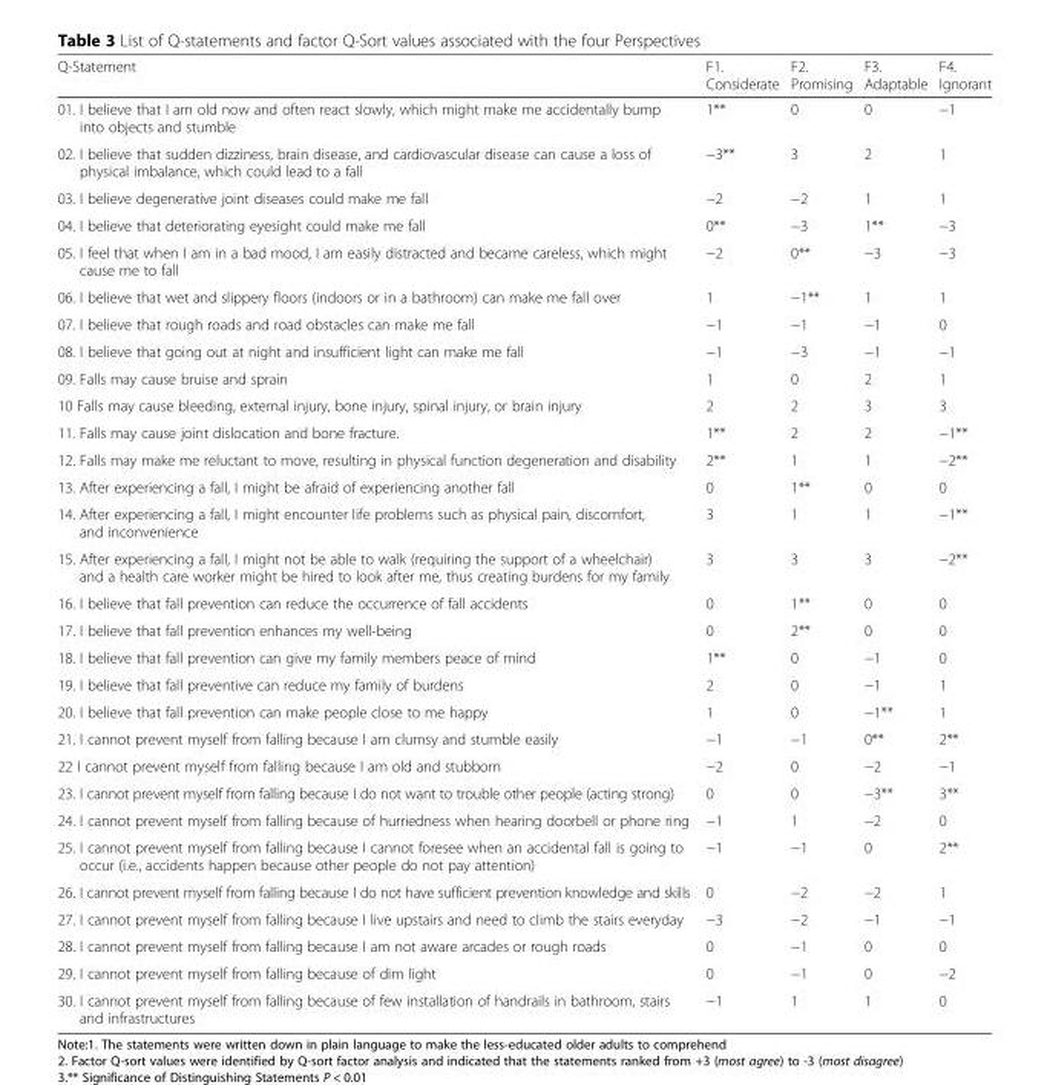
<table><thead><tr><td>Q-Statement</td><td>F1. Considerate</td><td>F2. Promising</td><td>F3. Adaptable</td><td>F4. Ignorant</td></tr></thead><tbody><tr><td>01. I believe that I am old now and often react slowly, which might make me accidentally bump into objects and stumble</td><td>1**</td><td>0</td><td>0</td><td>−1</td></tr><tr><td>02. I believe that sudden dizziness, brain disease, and cardiovascular disease can cause a loss of physical imbalance, which could lead to a fall</td><td>−3**</td><td>3</td><td>2</td><td>1</td></tr><tr><td>03. I believe degenerative joint diseases could make me fall</td><td>−2</td><td>−2</td><td>1</td><td>1</td></tr><tr><td>04. I believe that deteriorating eyesight could make me fall</td><td>0**</td><td>−3</td><td>1**</td><td>−3</td></tr><tr><td>05. I feel that when I am in a bad mood, I am easily distracted and became careless, which might cause me to fall</td><td>−2</td><td>0**</td><td>−3</td><td>−3</td></tr><tr><td>06. I believe that wet and slippery floors (indoors or in a bathroom) can make me fall over</td><td>1</td><td>−1**</td><td>1</td><td>1</td></tr><tr><td>07. I believe that rough roads and road obstacles can make me fall</td><td>−1</td><td>−1</td><td>−1</td><td>0</td></tr><tr><td>08. I believe that going out at night and insufficient light can make me fall</td><td>−1</td><td>−3</td><td>−1</td><td>−1</td></tr><tr><td>09. Falls may cause bruise and sprain</td><td>1</td><td>0</td><td>2</td><td>1</td></tr><tr><td>10 Falls may cause bleeding, external injury, bone injury, spinal injury, or brain injury</td><td>2</td><td>2</td><td>3</td><td>3</td></tr><tr><td>11. Falls may cause joint dislocation and bone fracture.</td><td>1**</td><td>2</td><td>2</td><td>−1**</td></tr><tr><td>12. Falls may make me reluctant to move, resulting in physical function degeneration and disability</td><td>2**</td><td>1</td><td>1</td><td>−2**</td></tr><tr><td>13. After experiencing a fall, I might be afraid of experiencing another fall</td><td>0</td><td>1**</td><td>0</td><td>0</td></tr><tr><td>14. After experiencing a fall, I might encounter life problems such as physical pain, discomfort, and inconvenience</td><td>3</td><td>1</td><td>1</td><td>−1**</td></tr><tr><td>15. After experiencing a fall, I might not be able to walk (requiring the support of a wheelchair) and a health care worker might be hired to look after me, thus creating burdens for my family</td><td>3</td><td>3</td><td>3</td><td>−2**</td></tr><tr><td>16. I believe that fall prevention can reduce the occurrence of fall accidents</td><td>0</td><td>1**</td><td>0</td><td>0</td></tr><tr><td>17. I believe that fall prevention enhances my well-being</td><td>0</td><td>2**</td><td>0</td><td>0</td></tr><tr><td>18. I believe that fall prevention can give my family members peace of mind</td><td>1**</td><td>0</td><td>−1</td><td>0</td></tr><tr><td>19. I believe that fall preventive can reduce my family of burdens</td><td>2</td><td>0</td><td>−1</td><td>1</td></tr><tr><td>20. I believe that fall prevention can make people close to me happy</td><td>1</td><td>0</td><td>−1**</td><td>1</td></tr><tr><td>21. I cannot prevent myself from falling because I am clumsy and stumble easily</td><td>−1</td><td>−1</td><td>0**</td><td>2**</td></tr><tr><td>22 I cannot prevent myself from falling because I am old and stubborn</td><td>−2</td><td>0</td><td>−2</td><td>−1</td></tr><tr><td>23. I cannot prevent myself from falling because I do not want to trouble other people (acting strong)</td><td>0</td><td>0</td><td>−3**</td><td>3**</td></tr><tr><td>24. I cannot prevent myself from falling because of hurriedness when hearing doorbell or phone ring</td><td>−1</td><td>1</td><td>−2</td><td>0</td></tr><tr><td>25. I cannot prevent myself from falling because I cannot foresee when an accidental fall is going to occur (i.e., accidents happen because other people do not pay attention)</td><td>−1</td><td>−1</td><td>0</td><td>2**</td></tr><tr><td>26. I cannot prevent myself from falling because I do not have sufficient prevention knowledge and skills</td><td>0</td><td>−2</td><td>−2</td><td>1</td></tr><tr><td>27. I cannot prevent myself from falling because I live upstairs and need to climb the stairs everyday</td><td>−3</td><td>−2</td><td>−1</td><td>−1</td></tr><tr><td>28. I cannot prevent myself from falling because I am not aware arcades or rough roads</td><td>0</td><td>−1</td><td>0</td><td>0</td></tr><tr><td>29. I cannot prevent myself from falling because of dim light</td><td>0</td><td>−1</td><td>0</td><td>−2</td></tr><tr><td>30. I cannot prevent myself from falling because of few installation of handrails in bathroom, stairs and infrastructures</td><td>−1</td><td>1</td><td>1</td><td>0</td></tr></tbody></table>